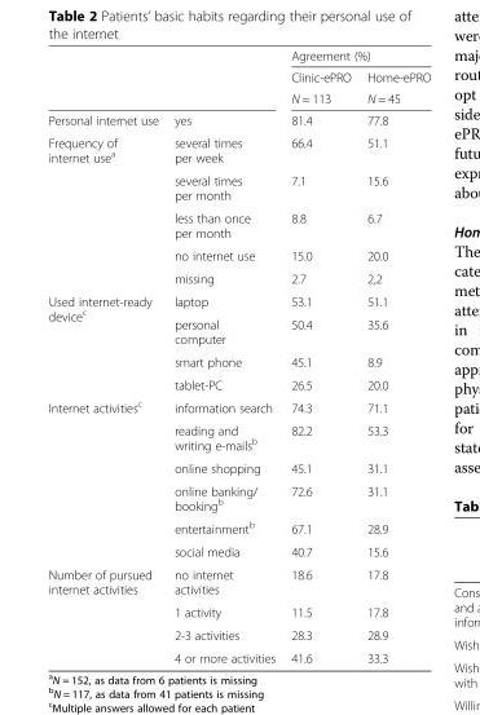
<table><thead><tr><td rowspan="3"></td><td rowspan="3"></td><td colspan="2">Agreement (%)</td></tr><tr><td rowspan="2">Clinic-ePRO N = 113</td><td rowspan="2">Home-ePRO N = 45</td></tr><tr></tr></thead><tbody><tr><td>Personal internet use</td><td>yes</td><td>81.4</td><td>77.8</td></tr><tr><td rowspan="5">Frequency of internet use<sup>a</sup></td><td>several times per week</td><td>66.4</td><td>51.1</td></tr><tr><td>several times per month</td><td>7.1</td><td>15.6</td></tr><tr><td>less than once per month</td><td>8.8</td><td>6.7</td></tr><tr><td>no internet use</td><td>15.0</td><td>20.0</td></tr><tr><td>missing</td><td>2.7</td><td>2,2</td></tr><tr><td rowspan="4">Used internet-ready device<sup>c</sup></td><td>laptop</td><td>53.1</td><td>51.1</td></tr><tr><td>personal computer</td><td>50.4</td><td>35.6</td></tr><tr><td>smart phone</td><td>45.1</td><td>8.9</td></tr><tr><td>tablet-PC</td><td>26.5</td><td>20.0</td></tr><tr><td rowspan="6">Internet activities<sup>c</sup></td><td>information search</td><td>74.3</td><td>71.1</td></tr><tr><td>reading and writing e-mails<sup>b</sup></td><td>82.2</td><td>53.3</td></tr><tr><td>online shopping</td><td>45.1</td><td>31.1</td></tr><tr><td>online banking/ booking<sup>b</sup></td><td>72.6</td><td>31.1</td></tr><tr><td>entertainment<sup>b</sup></td><td>67.1</td><td>28.9</td></tr><tr><td>social media</td><td>40.7</td><td>15.6</td></tr><tr><td rowspan="4">Number of pursued internet activities</td><td>no internet activities</td><td>18.6</td><td>17.8</td></tr><tr><td>1 activity</td><td>11.5</td><td>17.8</td></tr><tr><td>2-3 activities</td><td>28.3</td><td>28.9</td></tr><tr><td>4 or more activities</td><td>41.6</td><td>33.3</td></tr></tbody></table>